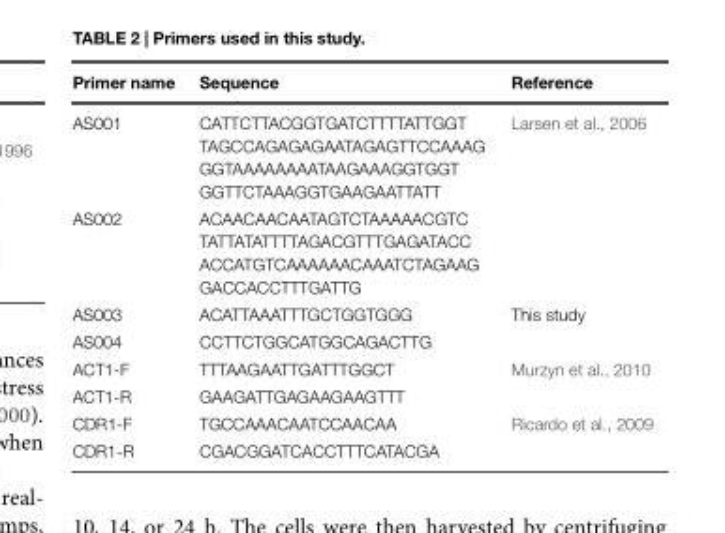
<table><thead><tr><td>Primer name</td><td>Sequence</td><td>Reference</td></tr></thead><tbody><tr><td>AS001</td><td>CATTCTTACGGTGATCTTTTATTGGT TAGCCAGAGAGAATAGAGTTCCAAAG GGTAAAAAAAATAAGAAAGGTGGT GGTTCTAAAGGTGAAGAATTATT</td><td>Larsen et al., 2006</td></tr><tr><td>AS002</td><td>ACAACAACAATAGTCTAAAAACGTC TATTATATTTTAGACGTTTGAGATACC ACCATGTCAAAAAACAAATCTAGAAG GACCACCTTTGATTG</td><td></td></tr><tr><td>AS003</td><td>ACATTAAATTTGCTGGTGGG</td><td>This study</td></tr><tr><td>AS004</td><td>CCTTCTGGCATGGCAGACTTG</td><td></td></tr><tr><td>ACT1-F</td><td>TTTAAGAATTGATTTGGCT</td><td>Murzyn et al., 2010</td></tr><tr><td>ACT1-R</td><td>GAAGATTGAGAAGAAGTTT</td><td></td></tr><tr><td>CDR1-F</td><td>TGCCAAACAATCCAACAA</td><td>Ricardo et al., 2009</td></tr><tr><td>CDR1-R</td><td>CGACGGATCACCTTTCATACGA</td><td></td></tr></tbody></table>